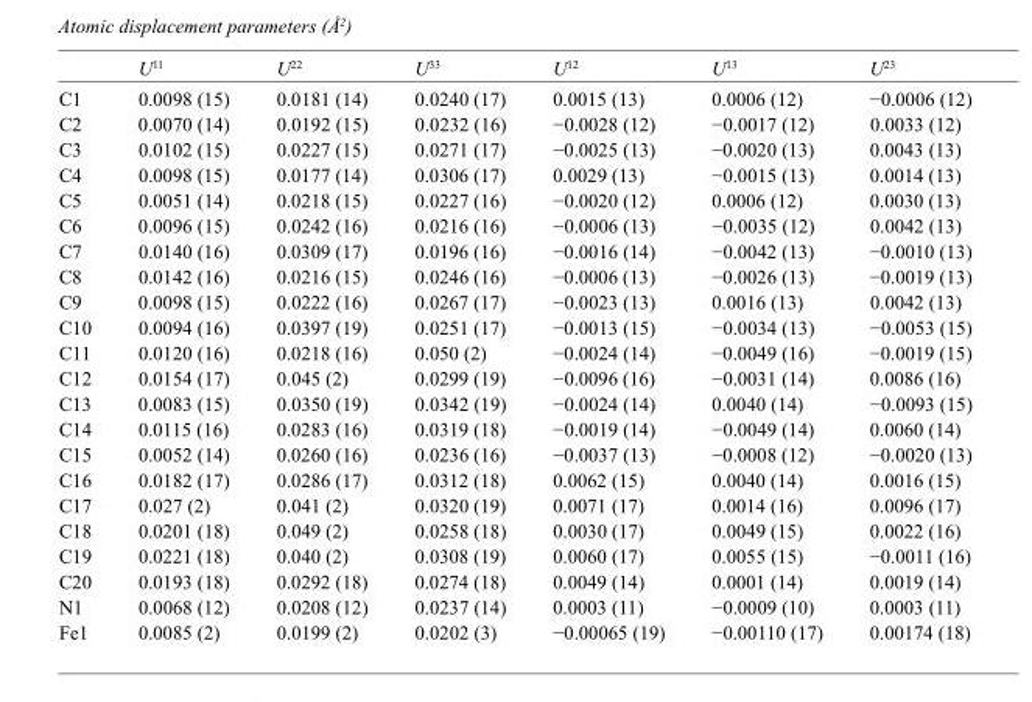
<table><thead><tr><td></td><td>U<sup>11</sup></td><td>U<sup>22</sup></td><td>U<sup>33</sup></td><td>U<sup>12</sup></td><td>U<sup>13</sup></td><td>U<sup>23</sup></td></tr></thead><tbody><tr><td>C1</td><td>0.0098 (15)</td><td>0.0181 (14)</td><td>0.0240 (17)</td><td>0.0015 (13)</td><td>0.0006 (12)</td><td>−0.0006 (12)</td></tr><tr><td>C2</td><td>0.0070 (14)</td><td>0.0192 (15)</td><td>0.0232 (16)</td><td>−0.0028 (12)</td><td>−0.0017 (12)</td><td>0.0033 (12)</td></tr><tr><td>C3</td><td>0.0102 (15)</td><td>0.0227 (15)</td><td>0.0271 (17)</td><td>−0.0025 (13)</td><td>−0.0020 (13)</td><td>0.0043 (13)</td></tr><tr><td>C4</td><td>0.0098 (15)</td><td>0.0177 (14)</td><td>0.0306 (17)</td><td>0.0029 (13)</td><td>−0.0015 (13)</td><td>0.0014 (13)</td></tr><tr><td>C5</td><td>0.0051 (14)</td><td>0.0218 (15)</td><td>0.0227 (16)</td><td>−0.0020 (12)</td><td>0.0006 (12)</td><td>0.0030 (13)</td></tr><tr><td>C6</td><td>0.0096 (15)</td><td>0.0242 (16)</td><td>0.0216 (16)</td><td>−0.0006 (13)</td><td>−0.0035 (12)</td><td>0.0042 (13)</td></tr><tr><td>C7</td><td>0.0140 (16)</td><td>0.0309 (17)</td><td>0.0196 (16)</td><td>−0.0016 (14)</td><td>−0.0042 (13)</td><td>−0.0010 (13)</td></tr><tr><td>C8</td><td>0.0142 (16)</td><td>0.0216 (15)</td><td>0.0246 (16)</td><td>−0.0006 (13)</td><td>−0.0026 (13)</td><td>−0.0019 (13)</td></tr><tr><td>C9</td><td>0.0098 (15)</td><td>0.0222 (16)</td><td>0.0267 (17)</td><td>−0.0023 (13)</td><td>0.0016 (13)</td><td>0.0042 (13)</td></tr><tr><td>C10</td><td>0.0094 (16)</td><td>0.0397 (19)</td><td>0.0251 (17)</td><td>−0.0013 (15)</td><td>−0.0034 (13)</td><td>−0.0053 (15)</td></tr><tr><td>C11</td><td>0.0120 (16)</td><td>0.0218 (16)</td><td>0.050 (2)</td><td>−0.0024 (14)</td><td>−0.0049 (16)</td><td>−0.0019 (15)</td></tr><tr><td>C12</td><td>0.0154 (17)</td><td>0.045 (2)</td><td>0.0299 (19)</td><td>−0.0096 (16)</td><td>−0.0031 (14)</td><td>0.0086 (16)</td></tr><tr><td>C13</td><td>0.0083 (15)</td><td>0.0350 (19)</td><td>0.0342 (19)</td><td>−0.0024 (14)</td><td>0.0040 (14)</td><td>−0.0093 (15)</td></tr><tr><td>C14</td><td>0.0115 (16)</td><td>0.0283 (16)</td><td>0.0319 (18)</td><td>−0.0019 (14)</td><td>−0.0049 (14)</td><td>0.0060 (14)</td></tr><tr><td>C15</td><td>0.0052 (14)</td><td>0.0260 (16)</td><td>0.0236 (16)</td><td>−0.0037 (13)</td><td>−0.0008 (12)</td><td>−0.0020 (13)</td></tr><tr><td>C16</td><td>0.0182 (17)</td><td>0.0286 (17)</td><td>0.0312 (18)</td><td>0.0062 (15)</td><td>0.0040 (14)</td><td>0.0016 (15)</td></tr><tr><td>C17</td><td>0.027 (2)</td><td>0.041 (2)</td><td>0.0320 (19)</td><td>0.0071 (17)</td><td>0.0014 (16)</td><td>0.0096 (17)</td></tr><tr><td>C18</td><td>0.0201 (18)</td><td>0.049 (2)</td><td>0.0258 (18)</td><td>0.0030 (17)</td><td>0.0049 (15)</td><td>0.0022 (16)</td></tr><tr><td>C19</td><td>0.0221 (18)</td><td>0.040 (2)</td><td>0.0308 (19)</td><td>0.0060 (17)</td><td>0.0055 (15)</td><td>−0.0011 (16)</td></tr><tr><td>C20</td><td>0.0193 (18)</td><td>0.0292 (18)</td><td>0.0274 (18)</td><td>0.0049 (14)</td><td>0.0001 (14)</td><td>0.0019 (14)</td></tr><tr><td>N1</td><td>0.0068 (12)</td><td>0.0208 (12)</td><td>0.0237 (14)</td><td>0.0003 (11)</td><td>−0.0009 (10)</td><td>0.0003 (11)</td></tr><tr><td>Fe1</td><td>0.0085 (2)</td><td>0.0199 (2)</td><td>0.0202 (3)</td><td>−0.00065 (19)</td><td>−0.00110 (17)</td><td>0.00174 (18)</td></tr></tbody></table>